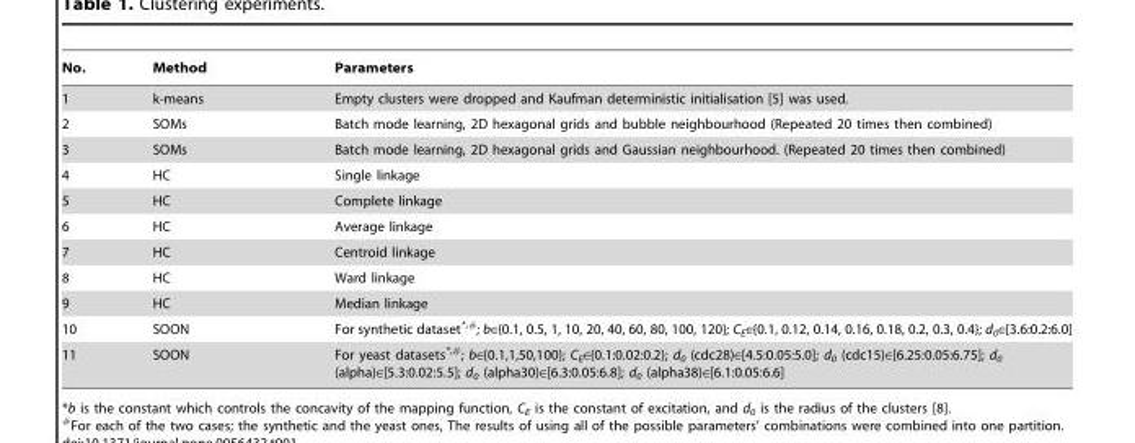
<table><thead><tr><td>No.</td><td>Method</td><td>Parameters</td></tr></thead><tbody><tr><td>1</td><td>k-means</td><td>Empty clusters were dropped and Kaufman deterministic initialisation [5] was used.</td></tr><tr><td>2</td><td>SOMs</td><td>Batch mode learning, 2D hexagonal grids and bubble neighbourhood (Repeated 20 times then combined)</td></tr><tr><td>3</td><td>SOMs</td><td>Batch mode learning, 2D hexagonal grids and Gaussian neighbourhood. (Repeated 20 times then combined)</td></tr><tr><td>4</td><td>HC</td><td>Single linkage</td></tr><tr><td>5</td><td>HC</td><td>Complete linkage</td></tr><tr><td>6</td><td>HC</td><td>Average linkage</td></tr><tr><td>7</td><td>HC</td><td>Centroid linkage</td></tr><tr><td>8</td><td>HC</td><td>Ward linkage</td></tr><tr><td>9</td><td>HC</td><td>Median linkage</td></tr><tr><td>10</td><td>SOON</td><td>For synthetic dataset*,#; b∈{0.1, 0.5, 1, 10, 20, 40, 60, 80, 100, 120}; CE∈{0.1, 0.12, 0.14, 0.16, 0.18, 0.2, 0.3, 0.4}; d0∈[3.6:0.2:6.0]</td></tr><tr><td>11</td><td>SOON</td><td>For yeast datasets*,#; b∈{0.1,1,50,100}; CE∈{0.1:0.02:0.2}; d0 (cdc28)∈[4.5:0.05:5.0]; d0 (cdc15)∈[6.25:0.05:6.75]; d0 (alpha)∈[5.3:0.02:5.5]; d0 (alpha30)∈[6.3:0.05:6.8]; d0 (alpha38)∈[6.1:0.05:6.6]</td></tr></tbody></table>